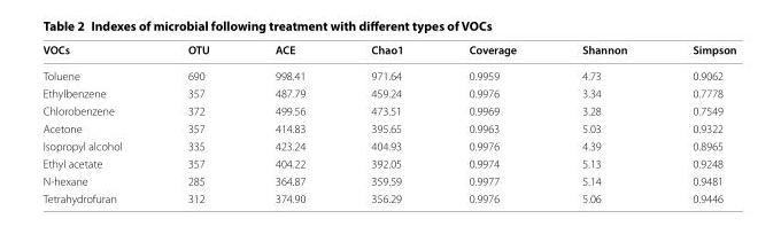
<table><thead><tr><td>VOCs</td><td>OTU</td><td>ACE</td><td>Chao1</td><td>Coverage</td><td>Shannon</td><td>Simpson</td></tr></thead><tbody><tr><td>Toluene</td><td>690</td><td>998.41</td><td>971.64</td><td>0.9959</td><td>4.73</td><td>0.9062</td></tr><tr><td>Ethylbenzene</td><td>357</td><td>487.79</td><td>459.24</td><td>0.9976</td><td>3.34</td><td>0.7778</td></tr><tr><td>Chlorobenzene</td><td>372</td><td>499.56</td><td>473.51</td><td>0.9969</td><td>3.28</td><td>0.7549</td></tr><tr><td>Acetone</td><td>357</td><td>414.83</td><td>395.65</td><td>0.9963</td><td>5.03</td><td>0.9322</td></tr><tr><td>Isopropyl alcohol</td><td>335</td><td>423.24</td><td>404.93</td><td>0.9976</td><td>4.39</td><td>0.8965</td></tr><tr><td>Ethyl acetate</td><td>357</td><td>404.22</td><td>392.05</td><td>0.9974</td><td>5.13</td><td>0.9248</td></tr><tr><td>N‑hexane</td><td>285</td><td>364.87</td><td>359.59</td><td>0.9977</td><td>5.14</td><td>0.9481</td></tr><tr><td>Tetrahydrofuran</td><td>312</td><td>374.90</td><td>356.29</td><td>0.9976</td><td>5.06</td><td>0.9446</td></tr></tbody></table>